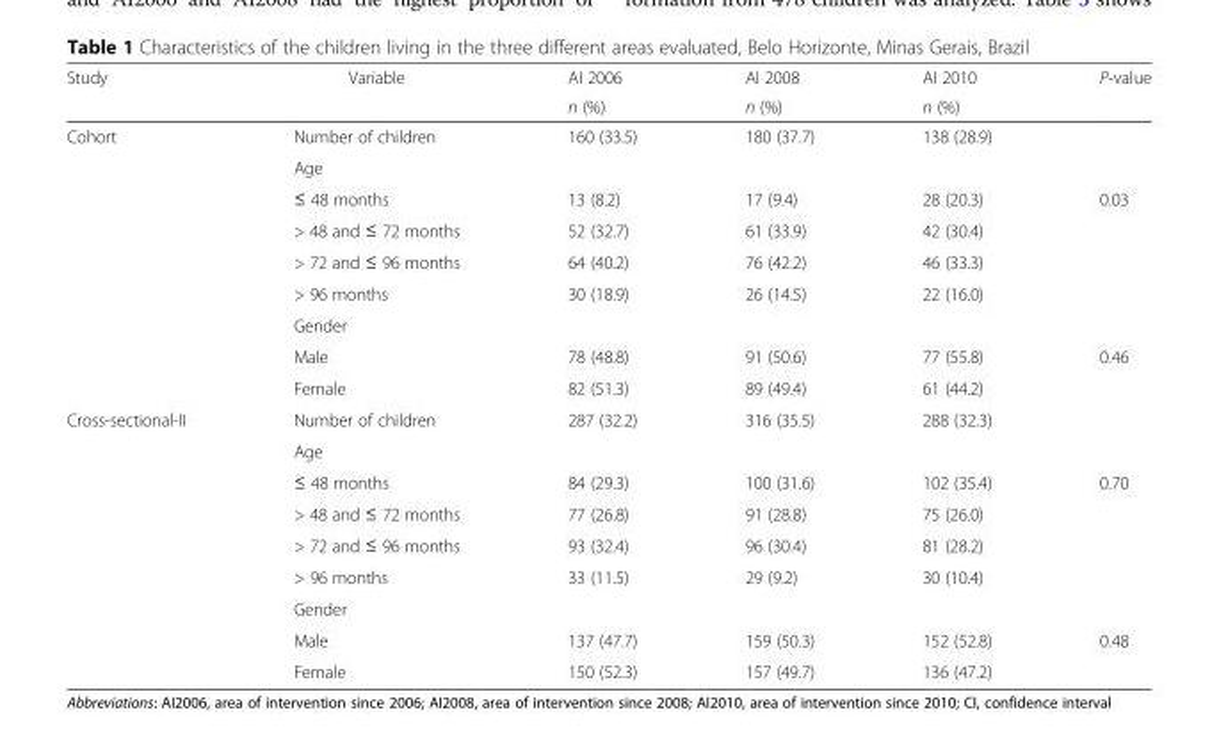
<table><thead><tr><td rowspan="2">Study</td><td rowspan="2">Variable</td><td rowspan="2">AI 2006 n (%)</td><td rowspan="2">AI 2008 n (%)</td><td rowspan="2">AI 2010 n (%)</td><td rowspan="2">P-value</td></tr><tr></tr></thead><tbody><tr><td rowspan="9">Cohort</td><td>Number of children</td><td>160 (33.5)</td><td>180 (37.7)</td><td>138 (28.9)</td><td></td></tr><tr><td colspan="5">Age</td></tr><tr><td>≤ 48 months</td><td>13 (8.2)</td><td>17 (9.4)</td><td>28 (20.3)</td><td rowspan="4">0.03</td></tr><tr><td>&gt; 48 and ≤ 72 months</td><td>52 (32.7)</td><td>61 (33.9)</td><td>42 (30.4)</td></tr><tr><td>&gt; 72 and ≤ 96 months</td><td>64 (40.2)</td><td>76 (42.2)</td><td>46 (33.3)</td></tr><tr><td>&gt; 96 months</td><td>30 (18.9)</td><td>26 (14.5)</td><td>22 (16.0)</td></tr><tr><td colspan="5">Gender</td></tr><tr><td>Male</td><td>78 (48.8)</td><td>91 (50.6)</td><td>77 (55.8)</td><td rowspan="2">0.46</td></tr><tr><td>Female</td><td>82 (51.3)</td><td>89 (49.4)</td><td>61 (44.2)</td></tr><tr><td rowspan="9">Cross-sectional-II</td><td>Number of children</td><td>287 (32.2)</td><td>316 (35.5)</td><td>288 (32.3)</td><td></td></tr><tr><td colspan="5">Age</td></tr><tr><td>≤ 48 months</td><td>84 (29.3)</td><td>100 (31.6)</td><td>102 (35.4)</td><td rowspan="4">0.70</td></tr><tr><td>&gt; 48 and ≤ 72 months</td><td>77 (26.8)</td><td>91 (28.8)</td><td>75 (26.0)</td></tr><tr><td>&gt; 72 and ≤ 96 months</td><td>93 (32.4)</td><td>96 (30.4)</td><td>81 (28.2)</td></tr><tr><td>&gt; 96 months</td><td>33 (11.5)</td><td>29 (9.2)</td><td>30 (10.4)</td></tr><tr><td colspan="5">Gender</td></tr><tr><td>Male</td><td>137 (47.7)</td><td>159 (50.3)</td><td>152 (52.8)</td><td rowspan="2">0.48</td></tr><tr><td>Female</td><td>150 (52.3)</td><td>157 (49.7)</td><td>136 (47.2)</td></tr></tbody></table>